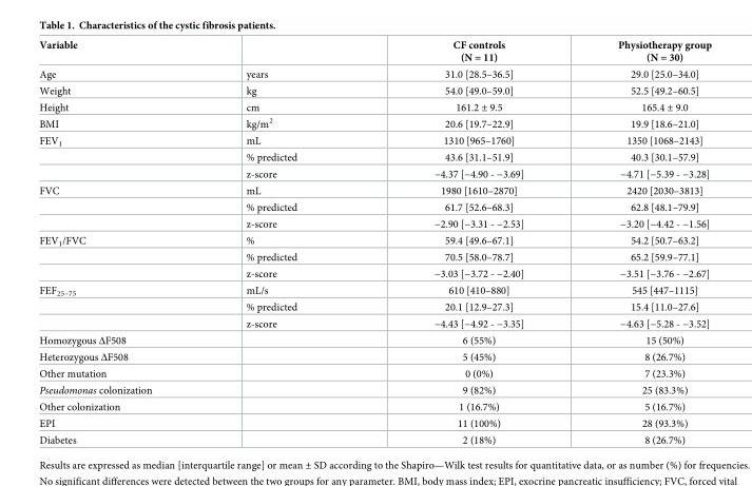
<table><thead><tr><td>Variable</td><td></td><td>CF controls (N = 11)</td><td>Physiotherapy group (N = 30)</td></tr></thead><tbody><tr><td>Age</td><td>years</td><td>31.0 [28.5–36.5]</td><td>29.0 [25.0–34.0]</td></tr><tr><td>Weight</td><td>kg</td><td>54.0 [49.0–59.0]</td><td>52.5 [49.2–60.5]</td></tr><tr><td>Height</td><td>cm</td><td>161.2 ± 9.5</td><td>165.4 ± 9.0</td></tr><tr><td>BMI</td><td>kg/m<sup>2</sup></td><td>20.6 [19.7–22.9]</td><td>19.9 [18.6–21.0]</td></tr><tr><td rowspan="3">FEV<sub>1</sub></td><td>mL</td><td>1310 [965–1760]</td><td>1350 [1068–2143]</td></tr><tr><td>% predicted</td><td>43.6 [31.1–51.9]</td><td>40.3 [30.1–57.9]</td></tr><tr><td>z-score</td><td>−4.37 [−4.90 - −3.69]</td><td>−4.71 [−5.39 - −3.28]</td></tr><tr><td rowspan="3">FVC</td><td>mL</td><td>1980 [1610–2870]</td><td>2420 [2030–3813]</td></tr><tr><td>% predicted</td><td>61.7 [52.6–68.3]</td><td>62.8 [48.1–79.9]</td></tr><tr><td>z-score</td><td>−2.90 [−3.31 - −2.53]</td><td>−3.20 [−4.42 - −1.56]</td></tr><tr><td rowspan="3">FEV<sub>1</sub>/FVC</td><td>%</td><td>59.4 [49.6–67.1]</td><td>54.2 [50.7–63.2]</td></tr><tr><td>% predicted</td><td>70.5 [58.0–78.7]</td><td>65.2 [59.9–77.1]</td></tr><tr><td>z-score</td><td>−3.03 [−3.72 - −2.40]</td><td>−3.51 [−3.76 - −2.67]</td></tr><tr><td rowspan="3">FEF<sub>25–75</sub></td><td>mL/s</td><td>610 [410–880]</td><td>545 [447–1115]</td></tr><tr><td>% predicted</td><td>20.1 [12.9–27.3]</td><td>15.4 [11.0–27.6]</td></tr><tr><td>z-score</td><td>−4.43 [−4.92 - −3.35]</td><td>−4.63 [−5.28 - −3.52]</td></tr><tr><td>Homozygous ΔF508</td><td></td><td>6 (55%)</td><td>15 (50%)</td></tr><tr><td>Heterozygous ΔF508</td><td></td><td>5 (45%)</td><td>8 (26.7%)</td></tr><tr><td>Other mutation</td><td></td><td>0 (0%)</td><td>7 (23.3%)</td></tr><tr><td>Pseudomonas colonization</td><td></td><td>9 (82%)</td><td>25 (83.3%)</td></tr><tr><td>Other colonization</td><td></td><td>1 (16.7%)</td><td>5 (16.7%)</td></tr><tr><td>EPI</td><td></td><td>11 (100%)</td><td>28 (93.3%)</td></tr><tr><td>Diabetes</td><td></td><td>2 (18%)</td><td>8 (26.7%)</td></tr></tbody></table>